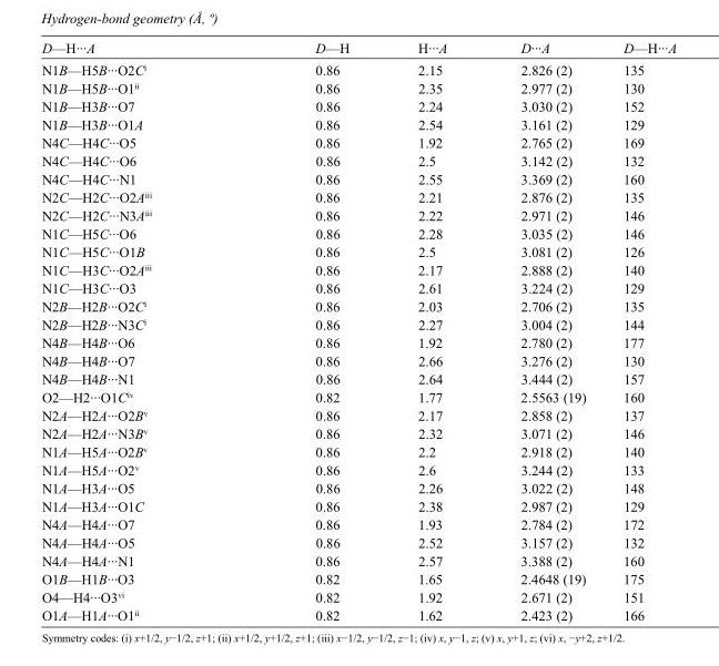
<table><tbody><tr><td>D—H···A</td><td>D—H</td><td>H···A</td><td>D···A</td><td>D—H···A</td></tr><tr><td>N1B—H5B···O2C<sup>i</sup></td><td>0.86</td><td>2.15</td><td>2.826 (2)</td><td>135</td></tr><tr><td>N1B—H5B···O1<sup>ii</sup></td><td>0.86</td><td>2.35</td><td>2.977 (2)</td><td>130</td></tr><tr><td>N1B—H3B···O7</td><td>0.86</td><td>2.24</td><td>3.030 (2)</td><td>152</td></tr><tr><td>N1B—H3B···O1A</td><td>0.86</td><td>2.54</td><td>3.161 (2)</td><td>129</td></tr><tr><td>N4C—H4C···O5</td><td>0.86</td><td>1.92</td><td>2.765 (2)</td><td>169</td></tr><tr><td>N4C—H4C···O6</td><td>0.86</td><td>2.5</td><td>3.142 (2)</td><td>132</td></tr><tr><td>N4C—H4C···N1</td><td>0.86</td><td>2.55</td><td>3.369 (2)</td><td>160</td></tr><tr><td>N2C—H2C···O2A<sup>iii</sup></td><td>0.86</td><td>2.21</td><td>2.876 (2)</td><td>135</td></tr><tr><td>N2C—H2C···N3A<sup>iii</sup></td><td>0.86</td><td>2.22</td><td>2.971 (2)</td><td>146</td></tr><tr><td>N1C—H5C···O6</td><td>0.86</td><td>2.28</td><td>3.035 (2)</td><td>146</td></tr><tr><td>N1C—H5C···O1B</td><td>0.86</td><td>2.5</td><td>3.081 (2)</td><td>126</td></tr><tr><td>N1C—H3C···O2A<sup>iii</sup></td><td>0.86</td><td>2.17</td><td>2.888 (2)</td><td>140</td></tr><tr><td>N1C—H3C···O3</td><td>0.86</td><td>2.61</td><td>3.224 (2)</td><td>129</td></tr><tr><td>N2B—H2B···O2C<sup>i</sup></td><td>0.86</td><td>2.03</td><td>2.706 (2)</td><td>135</td></tr><tr><td>N2B—H2B···N3C<sup>i</sup></td><td>0.86</td><td>2.27</td><td>3.004 (2)</td><td>144</td></tr><tr><td>N4B—H4B···O6</td><td>0.86</td><td>1.92</td><td>2.780 (2)</td><td>177</td></tr><tr><td>N4B—H4B···O7</td><td>0.86</td><td>2.66</td><td>3.276 (2)</td><td>130</td></tr><tr><td>N4B—H4B···N1</td><td>0.86</td><td>2.64</td><td>3.444 (2)</td><td>157</td></tr><tr><td>O2—H2···O1C<sup>iv</sup></td><td>0.82</td><td>1.77</td><td>2.5563 (19)</td><td>160</td></tr><tr><td>N2A—H2A···O2B<sup>v</sup></td><td>0.86</td><td>2.17</td><td>2.858 (2)</td><td>137</td></tr><tr><td>N2A—H2A···N3B<sup>v</sup></td><td>0.86</td><td>2.32</td><td>3.071 (2)</td><td>146</td></tr><tr><td>N1A—H5A···O2B<sup>v</sup></td><td>0.86</td><td>2.2</td><td>2.918 (2)</td><td>140</td></tr><tr><td>N1A—H5A···O2<sup>v</sup></td><td>0.86</td><td>2.6</td><td>3.244 (2)</td><td>133</td></tr><tr><td>N1A—H3A···O5</td><td>0.86</td><td>2.26</td><td>3.022 (2)</td><td>148</td></tr><tr><td>N1A—H3A···O1C</td><td>0.86</td><td>2.38</td><td>2.987 (2)</td><td>129</td></tr><tr><td>N4A—H4A···O7</td><td>0.86</td><td>1.93</td><td>2.784 (2)</td><td>172</td></tr><tr><td>N4A—H4A···O5</td><td>0.86</td><td>2.52</td><td>3.157 (2)</td><td>132</td></tr><tr><td>N4A—H4A···N1</td><td>0.86</td><td>2.57</td><td>3.388 (2)</td><td>160</td></tr><tr><td>O1B—H1B···O3</td><td>0.82</td><td>1.65</td><td>2.4648 (19)</td><td>175</td></tr><tr><td>O4—H4···O3<sup>vi</sup></td><td>0.82</td><td>1.92</td><td>2.671 (2)</td><td>151</td></tr><tr><td>O1A—H1A···O1<sup>ii</sup></td><td>0.82</td><td>1.62</td><td>2.423 (2)</td><td>166</td></tr></tbody></table>